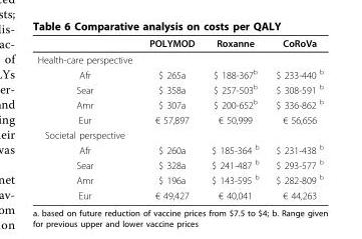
<table><thead><tr><td></td><td>POLYMOD</td><td>Roxanne</td><td>CoRoVa</td></tr></thead><tbody><tr><td colspan="4">Health-care perspective</td></tr><tr><td>Afr</td><td>$ 265a</td><td>$ 188-367<sup>b</sup></td><td>$ 233-440 <sup>b</sup></td></tr><tr><td>Sear</td><td>$ 358a</td><td>$ 257-503<sup>b</sup></td><td>$ 308-591 <sup>b</sup></td></tr><tr><td>Amr</td><td>$ 307a</td><td>$ 200-652<sup>b</sup></td><td>$ 336-862 <sup>b</sup></td></tr><tr><td>Eur</td><td>€ 57,897</td><td>€ 50,999</td><td>€ 56,656</td></tr><tr><td colspan="4">Societal perspective</td></tr><tr><td>Afr</td><td>$ 260a</td><td>$ 185-364 <sup>b</sup></td><td>$ 231-438 <sup>b</sup></td></tr><tr><td>Sear</td><td>$ 328a</td><td>$ 241-487 <sup>b</sup></td><td>$ 293-577 <sup>b</sup></td></tr><tr><td>Amr</td><td>$ 196a</td><td>$ 143-595 <sup>b</sup></td><td>$ 282-809 <sup>b</sup></td></tr><tr><td>Eur</td><td>€ 49,427</td><td>€ 40,041</td><td>€ 44,263</td></tr></tbody></table>